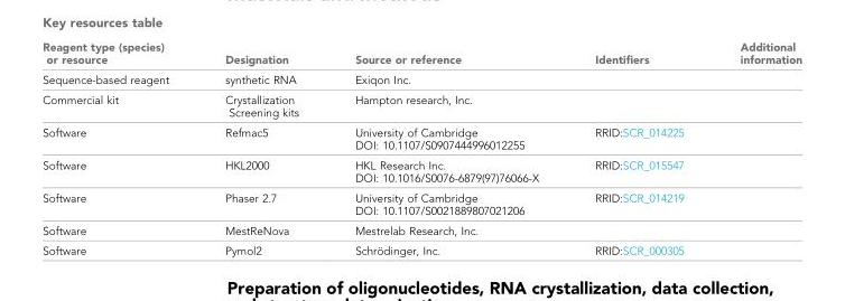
<table><thead><tr><td>Reagent type (species) or resource</td><td>Designation</td><td>Source or reference</td><td>Identifiers</td><td>Additional information</td></tr></thead><tbody><tr><td>Sequence-based reagent</td><td>synthetic RNA</td><td>Exiqon Inc.</td><td></td><td></td></tr><tr><td>Commercial kit</td><td>Crystallization Screening kits</td><td>Hampton research, Inc.</td><td></td><td></td></tr><tr><td>Software</td><td>Refmac5</td><td>University of Cambridge DOI: 10.1107/S0907444996012255</td><td>RRID:SCR_014225</td><td></td></tr><tr><td>Software</td><td>HKL2000</td><td>HKL Research Inc. DOI: 10.1016/S0076-6879(97)76066-X</td><td>RRID:SCR_015547</td><td></td></tr><tr><td>Software</td><td>Phaser 2.7</td><td>University of Cambridge DOI: 10.1107/S0021889807021206</td><td>RRID:SCR_014219</td><td></td></tr><tr><td>Software</td><td>MestReNova</td><td>Mestrelab Research, Inc.</td><td></td><td></td></tr><tr><td>Software</td><td>Pymol2</td><td>Schro¨ dinger, Inc.</td><td>RRID:SCR_000305</td><td></td></tr></tbody></table>